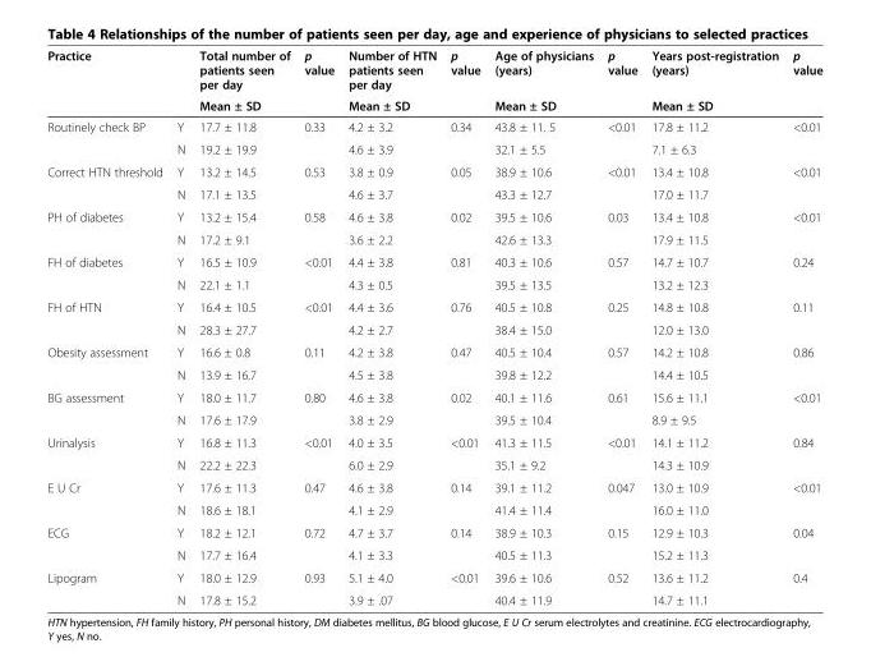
<table><thead><tr><td rowspan="2">Practice</td><td rowspan="2"></td><td rowspan="2">Total number of patients seen per day Mean ± SD</td><td rowspan="2">p value</td><td rowspan="2">Number of HTN patients seen per day Mean ± SD</td><td rowspan="2">p value</td><td rowspan="2">Age of physicians (years) Mean ± SD</td><td rowspan="2">p value</td><td rowspan="2">Years post-registration (years) Mean ± SD</td><td rowspan="2">p value</td></tr><tr></tr></thead><tbody><tr><td rowspan="2">Routinely check BP</td><td>Y</td><td>17.7 ± 11.8</td><td rowspan="2">0.33</td><td>4.2 ± 3.2</td><td rowspan="2">0.34</td><td>43.8 ± 11. 5</td><td rowspan="2">&lt;0.01</td><td>17.8 ± 11.2</td><td rowspan="2">&lt;0.01</td></tr><tr><td>N</td><td>19.2 ± 19.9</td><td>4.6 ± 3.9</td><td>32.1 ± 5.5</td><td>7.1 ± 6.3</td></tr><tr><td rowspan="2">Correct HTN threshold</td><td>Y</td><td>13.2 ± 14.5</td><td rowspan="2">0.53</td><td>3.8 ± 0.9</td><td rowspan="2">0.05</td><td>38.9 ± 10.6</td><td rowspan="2">&lt;0.01</td><td>13.4 ± 10.8</td><td rowspan="2">&lt;0.01</td></tr><tr><td>N</td><td>17.1 ± 13.5</td><td>4.6 ± 3.7</td><td>43.3 ± 12.7</td><td>17.0 ± 11.7</td></tr><tr><td rowspan="2">PH of diabetes</td><td>Y</td><td>13.2 ± 15.4</td><td rowspan="2">0.58</td><td>4.6 ± 3.8</td><td rowspan="2">0.02</td><td>39.5 ± 10.6</td><td rowspan="2">0.03</td><td>13.4 ± 10.8</td><td rowspan="2">&lt;0.01</td></tr><tr><td>N</td><td>17.2 ± 9.1</td><td>3.6 ± 2.2</td><td>42.6 ± 13.3</td><td>17.9 ± 11.5</td></tr><tr><td rowspan="2">FH of diabetes</td><td>Y</td><td>16.5 ± 10.9</td><td rowspan="2">&lt;0.01</td><td>4.4 ± 3.8</td><td rowspan="2">0.81</td><td>40.3 ± 10.6</td><td rowspan="2">0.57</td><td>14.7 ± 10.7</td><td rowspan="2">0.24</td></tr><tr><td>N</td><td>22.1 ± 1.1</td><td>4.3 ± 0.5</td><td>39.5 ± 13.5</td><td>13.2 ± 12.3</td></tr><tr><td rowspan="2">FH of HTN</td><td>Y</td><td>16.4 ± 10.5</td><td rowspan="2">&lt;0.01</td><td>4.4 ± 3.6</td><td rowspan="2">0.76</td><td>40.5 ± 10.8</td><td rowspan="2">0.25</td><td>14.8 ± 10.8</td><td rowspan="2">0.11</td></tr><tr><td>N</td><td>28.3 ± 27.7</td><td>4.2 ± 2.7</td><td>38.4 ± 15.0</td><td>12.0 ± 13.0</td></tr><tr><td rowspan="2">Obesity assessment</td><td>Y</td><td>16.6 ± 0.8</td><td rowspan="2">0.11</td><td>4.2 ± 3.8</td><td rowspan="2">0.47</td><td>40.5 ± 10.4</td><td rowspan="2">0.57</td><td>14.2 ± 10.8</td><td rowspan="2">0.86</td></tr><tr><td>N</td><td>13.9 ± 16.7</td><td>4.5 ± 3.8</td><td>39.8 ± 12.2</td><td>14.4 ± 10.5</td></tr><tr><td rowspan="2">BG assessment</td><td>Y</td><td>18.0 ± 11.7</td><td rowspan="2">0.80</td><td>4.6 ± 3.8</td><td rowspan="2">0.02</td><td>40.1 ± 11.6</td><td rowspan="2">0.61</td><td>15.6 ± 11.1</td><td rowspan="2">&lt;0.01</td></tr><tr><td>N</td><td>17.6 ± 17.9</td><td>3.8 ± 2.9</td><td>39.5 ± 10.4</td><td>8.9 ± 9.5</td></tr><tr><td rowspan="2">Urinalysis</td><td>Y</td><td>16.8 ± 11.3</td><td rowspan="2">&lt;0.01</td><td>4.0 ± 3.5</td><td rowspan="2">&lt;0.01</td><td>41.3 ± 11.5</td><td rowspan="2">&lt;0.01</td><td>14.1 ± 11.2</td><td rowspan="2">0.84</td></tr><tr><td>N</td><td>22.2 ± 22.3</td><td>6.0 ± 2.9</td><td>35.1 ± 9.2</td><td>14.3 ± 10.9</td></tr><tr><td rowspan="2">E U Cr</td><td>Y</td><td>17.6 ± 11.3</td><td rowspan="2">0.47</td><td>4.6 ± 3.8</td><td rowspan="2">0.14</td><td>39.1 ± 11.2</td><td rowspan="2">0.047</td><td>13.0 ± 10.9</td><td rowspan="2">&lt;0.01</td></tr><tr><td>N</td><td>18.6 ± 18.1</td><td>4.1 ± 2.9</td><td>41.4 ± 11.4</td><td>16.0 ± 11.0</td></tr><tr><td rowspan="2">ECG</td><td>Y</td><td>18.2 ± 12.1</td><td rowspan="2">0.72</td><td>4.7 ± 3.7</td><td rowspan="2">0.14</td><td>38.9 ± 10.3</td><td rowspan="2">0.15</td><td>12.9 ± 10.3</td><td rowspan="2">0.04</td></tr><tr><td>N</td><td>17.7 ± 16.4</td><td>4.1 ± 3.3</td><td>40.5 ± 11.3</td><td>15.2 ± 11.3</td></tr><tr><td rowspan="2">Lipogram</td><td>Y</td><td>18.0 ± 12.9</td><td rowspan="2">0.93</td><td>5.1 ± 4.0</td><td rowspan="2">&lt;0.01</td><td>39.6 ± 10.6</td><td rowspan="2">0.52</td><td>13.6 ± 11.2</td><td rowspan="2">0.4</td></tr><tr><td>N</td><td>17.8 ± 15.2</td><td>3.9 ± .07</td><td>40.4 ± 11.9</td><td>14.7 ± 11.1</td></tr></tbody></table>